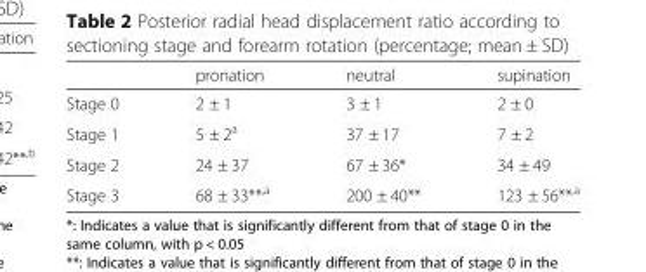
<table><thead><tr><td></td><td>pronation</td><td>neutral</td><td>supination</td></tr></thead><tbody><tr><td>Stage 0</td><td>2 ± 1</td><td>3 ± 1</td><td>2 ± 0</td></tr><tr><td>Stage 1</td><td>5 ± 2<sup>a</sup></td><td>37 ± 17</td><td>7 ± 2</td></tr><tr><td>Stage 2</td><td>24 ± 37</td><td>67 ± 36*</td><td>34 ± 49</td></tr><tr><td>Stage 3</td><td>68 ± 33**<sup>,a</sup></td><td>200 ± 40**</td><td>123 ± 56**<sup>,a</sup></td></tr></tbody></table>